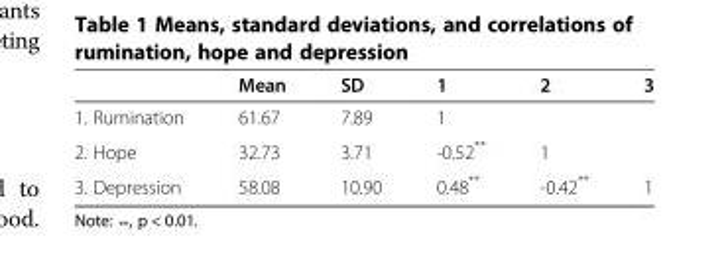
<table><thead><tr><td></td><td>Mean</td><td>SD</td><td>1</td><td>2</td><td>3</td></tr></thead><tbody><tr><td>1. Rumination</td><td>61.67</td><td>7.89</td><td>1</td><td></td><td></td></tr><tr><td>2. Hope</td><td>32.73</td><td>3.71</td><td>-0.52**</td><td>1</td><td></td></tr><tr><td>3. Depression</td><td>58.08</td><td>10.90</td><td>0.48**</td><td>-0.42**</td><td>1</td></tr></tbody></table>